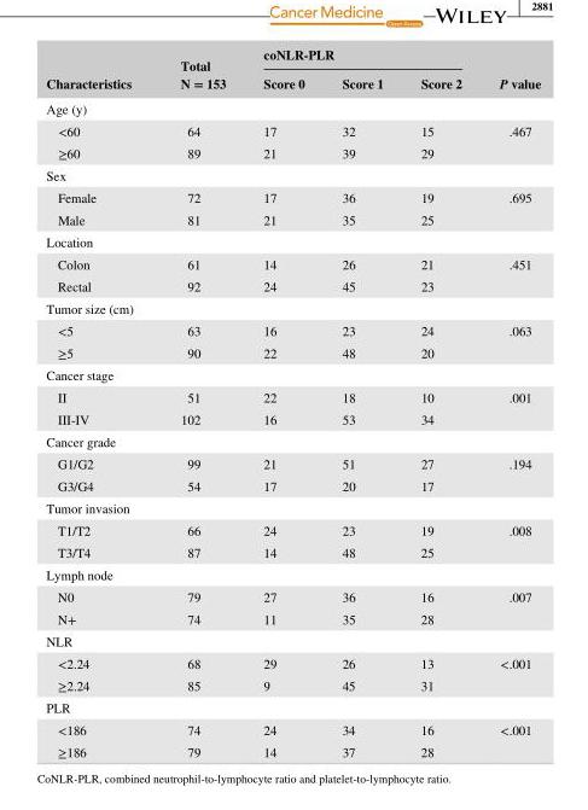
<table><thead><tr><td rowspan="2">Characteristics</td><td rowspan="2">Total N = 153</td><td colspan="3">coNLR- PLR</td><td rowspan="2">P value</td></tr><tr><td>Score 0</td><td>Score 1</td><td>Score 2</td></tr></thead><tbody><tr><td colspan="6">Age (y)</td></tr><tr><td>&lt;60</td><td>64</td><td>17</td><td>32</td><td>15</td><td rowspan="2">.467</td></tr><tr><td>≥60</td><td>89</td><td>21</td><td>39</td><td>29</td></tr><tr><td colspan="6">Sex</td></tr><tr><td>Female</td><td>72</td><td>17</td><td>36</td><td>19</td><td rowspan="2">.695</td></tr><tr><td>Male</td><td>81</td><td>21</td><td>35</td><td>25</td></tr><tr><td colspan="6">Location</td></tr><tr><td>Colon</td><td>61</td><td>14</td><td>26</td><td>21</td><td rowspan="2">.451</td></tr><tr><td>Rectal</td><td>92</td><td>24</td><td>45</td><td>23</td></tr><tr><td colspan="6">Tumor size (cm)</td></tr><tr><td>&lt;5</td><td>63</td><td>16</td><td>23</td><td>24</td><td rowspan="2">.063</td></tr><tr><td>≥5</td><td>90</td><td>22</td><td>48</td><td>20</td></tr><tr><td colspan="6">Cancer stage</td></tr><tr><td>II</td><td>51</td><td>22</td><td>18</td><td>10</td><td rowspan="2">.001</td></tr><tr><td>III- IV</td><td>102</td><td>16</td><td>53</td><td>34</td></tr><tr><td colspan="6">Cancer grade</td></tr><tr><td>G1/G2</td><td>99</td><td>21</td><td>51</td><td>27</td><td rowspan="2">.194</td></tr><tr><td>G3/G4</td><td>54</td><td>17</td><td>20</td><td>17</td></tr><tr><td colspan="6">Tumor invasion</td></tr><tr><td>T1/T2</td><td>66</td><td>24</td><td>23</td><td>19</td><td rowspan="2">.008</td></tr><tr><td>T3/T4</td><td>87</td><td>14</td><td>48</td><td>25</td></tr><tr><td colspan="6">Lymph node</td></tr><tr><td>N0</td><td>79</td><td>27</td><td>36</td><td>16</td><td rowspan="2">.007</td></tr><tr><td>N+</td><td>74</td><td>11</td><td>35</td><td>28</td></tr><tr><td colspan="6">NLR</td></tr><tr><td>&lt;2.24</td><td>68</td><td>29</td><td>26</td><td>13</td><td rowspan="2">&lt;.001</td></tr><tr><td>≥2.24</td><td>85</td><td>9</td><td>45</td><td>31</td></tr><tr><td colspan="6">PLR</td></tr><tr><td>&lt;186</td><td>74</td><td>24</td><td>34</td><td>16</td><td rowspan="2">&lt;.001</td></tr><tr><td>≥186</td><td>79</td><td>14</td><td>37</td><td>28</td></tr></tbody></table>